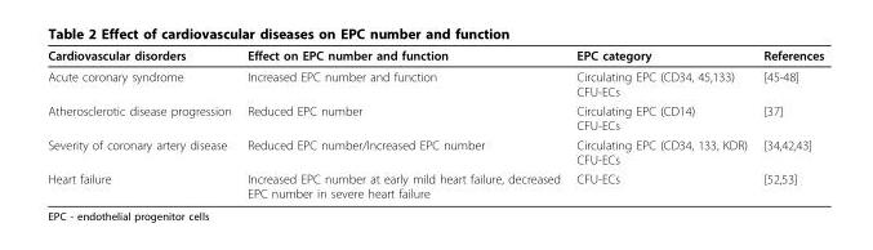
<table><thead><tr><td>Cardiovascular disorders</td><td>Effect on EPC number and function</td><td>EPC category</td><td>References</td></tr></thead><tbody><tr><td>Acute coronary syndrome</td><td>Increased EPC number and function</td><td>Circulating EPC (CD34, 45,133) CFU-ECs</td><td>[45-48]</td></tr><tr><td>Atherosclerotic disease progression</td><td>Reduced EPC number</td><td>Circulating EPC (CD14) CFU-ECs</td><td>[37]</td></tr><tr><td>Severity of coronary artery disease</td><td>Reduced EPC number/Increased EPC number</td><td>Circulating EPC (CD34, 133, KDR) CFU-ECs</td><td>[34,42,43]</td></tr><tr><td>Heart failure</td><td>Increased EPC number at early mild heart failure, decreased EPC number in severe heart failure</td><td>CFU-ECs</td><td>[52,53]</td></tr></tbody></table>